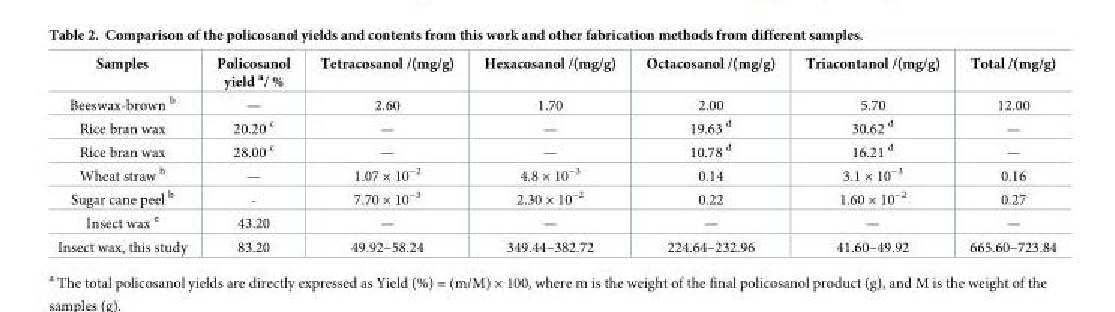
<table><thead><tr><td>Samples</td><td>Policosanol yield <sup>a</sup>/ %</td><td>Tetracosanol /(mg/g)</td><td>Hexacosanol /(mg/g)</td><td>Octacosanol /(mg/g)</td><td>Triacontanol /(mg/g)</td><td>Total /(mg/g)</td></tr></thead><tbody><tr><td>Beeswax-brown <sup>b</sup></td><td>—</td><td>2.60</td><td>1.70</td><td>2.00</td><td>5.70</td><td>12.00</td></tr><tr><td>Rice bran wax</td><td>20.20 <sup>c</sup></td><td>—</td><td>—</td><td>19.63 <sup>d</sup></td><td>30.62 <sup>d</sup></td><td>—</td></tr><tr><td>Rice bran wax</td><td>28.00 <sup>c</sup></td><td>—</td><td>—</td><td>10.78 <sup>d</sup></td><td>16.21 <sup>d</sup></td><td>—</td></tr><tr><td>Wheat straw <sup>b</sup></td><td>—</td><td>1.07 × 10<sup>−2</sup></td><td>4.8 × 10<sup>−3</sup></td><td>0.14</td><td>3.1 × 10<sup>−3</sup></td><td>0.16</td></tr><tr><td>Sugar cane peel <sup>b</sup></td><td>-</td><td>7.70 × 10<sup>−3</sup></td><td>2.30 × 10<sup>−2</sup></td><td>0.22</td><td>1.60 × 10<sup>−2</sup></td><td>0.27</td></tr><tr><td>Insect wax <sup>e</sup></td><td>43.20</td><td>—</td><td>—</td><td>—</td><td>—</td><td>—</td></tr><tr><td>Insect wax, this study</td><td>83.20</td><td>49.92–58.24</td><td>349.44–382.72</td><td>224.64–232.96</td><td>41.60–49.92</td><td>665.60–723.84</td></tr></tbody></table>